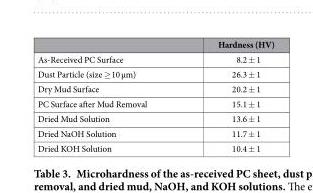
<table><thead><tr><td></td><td>Hardness (HV)</td></tr></thead><tbody><tr><td>As-Received PC Surface</td><td>8.2 ± 1</td></tr><tr><td>Dust Particle (size ≥ 10 μm)</td><td>26.3 ± 1</td></tr><tr><td>Dry Mud Surface</td><td>20.2 ± 1</td></tr><tr><td>PC Surface after Mud Removal</td><td>15.1 ± 1</td></tr><tr><td>Dried Mud Solution</td><td>13.6 ± 1</td></tr><tr><td>Dried NaOH Solution</td><td>11.7 ± 1</td></tr><tr><td>Dried KOH Solution</td><td>10.4 ± 1</td></tr></tbody></table>